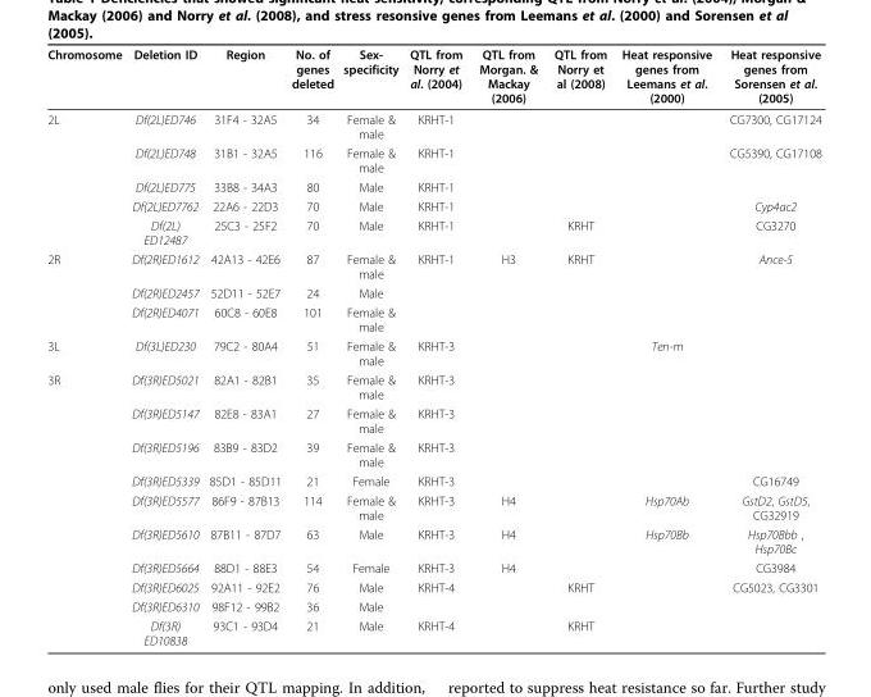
<table><thead><tr><td>Chromosome</td><td>Deletion ID</td><td>Region</td><td>No. of genes deleted</td><td>Sex- specificity</td><td>QTL from Norry et al. (2004)</td><td>QTL from Morgan. &amp; Mackay (2006)</td><td>QTL from Norry et al (2008)</td><td>Heat responsive genes from Leemans et al. (2000)</td><td>Heat responsive genes from Sorensen et al. (2005)</td></tr></thead><tbody><tr><td rowspan="5">2L</td><td>Df(2L)ED746</td><td>31F4 - 32A5</td><td>34</td><td>Female &amp; male</td><td>KRHT-1</td><td></td><td></td><td></td><td>CG7300, CG17124</td></tr><tr><td>Df(2L)ED748</td><td>31B1 - 32A5</td><td>116</td><td>Female &amp; male</td><td>KRHT-1</td><td></td><td></td><td></td><td>CG5390, CG17108</td></tr><tr><td>Df(2L)ED775</td><td>33B8 - 34A3</td><td>80</td><td>Male</td><td>KRHT-1</td><td></td><td></td><td></td><td></td></tr><tr><td>Df(2L)ED7762</td><td>22A6 - 22D3</td><td>70</td><td>Male</td><td>KRHT-1</td><td></td><td></td><td></td><td>Cyp4ac2</td></tr><tr><td>Df(2L) ED12487</td><td>25C3 - 25F2</td><td>70</td><td>Male</td><td>KRHT-1</td><td></td><td>KRHT</td><td></td><td>CG3270</td></tr><tr><td rowspan="3">2R</td><td>Df(2R)ED1612</td><td>42A13 - 42E6</td><td>87</td><td>Female &amp; male</td><td>KRHT-1</td><td>H3</td><td>KRHT</td><td></td><td>Ance-5</td></tr><tr><td>Df(2R)ED2457</td><td>52D11 - 52E7</td><td>24</td><td>Male</td><td></td><td></td><td></td><td></td><td></td></tr><tr><td>Df(2R)ED4071</td><td>60C8 - 60E8</td><td>101</td><td>Female &amp; male</td><td></td><td></td><td></td><td></td><td></td></tr><tr><td>3L</td><td>Df(3L)ED230</td><td>79C2 - 80A4</td><td>51</td><td>Female &amp; male</td><td>KRHT-3</td><td></td><td></td><td>Ten-m</td><td></td></tr><tr><td rowspan="10">3R</td><td>Df(3R)ED5021</td><td>82A1 - 82B1</td><td>35</td><td>Female &amp; male</td><td>KRHT-3</td><td></td><td></td><td></td><td></td></tr><tr><td>Df(3R)ED5147</td><td>82E8 - 83A1</td><td>27</td><td>Female &amp; male</td><td>KRHT-3</td><td></td><td></td><td></td><td></td></tr><tr><td>Df(3R)ED5196</td><td>83B9 - 83D2</td><td>39</td><td>Female &amp; male</td><td>KRHT-3</td><td></td><td></td><td></td><td></td></tr><tr><td>Df(3R)ED5339</td><td>85D1 - 85D11</td><td>21</td><td>Female</td><td>KRHT-3</td><td></td><td></td><td></td><td>CG16749</td></tr><tr><td>Df(3R)ED5577</td><td>86F9 - 87B13</td><td>114</td><td>Female &amp; male</td><td>KRHT-3</td><td>H4</td><td></td><td>Hsp70Ab</td><td>GstD2, GstD5, CG32919</td></tr><tr><td>Df(3R)ED5610</td><td>87B11 - 87D7</td><td>63</td><td>Male</td><td>KRHT-3</td><td>H4</td><td></td><td>Hsp70Bb</td><td>Hsp70Bbb , Hsp70Bc</td></tr><tr><td>Df(3R)ED5664</td><td>88D1 - 88E3</td><td>54</td><td>Female</td><td>KRHT-3</td><td>H4</td><td></td><td></td><td>CG3984</td></tr><tr><td>Df(3R)ED6025</td><td>92A11 - 92E2</td><td>76</td><td>Male</td><td>KRHT-4</td><td></td><td>KRHT</td><td></td><td>CG5023, CG3301</td></tr><tr><td>Df(3R)ED6310</td><td>98F12 - 99B2</td><td>36</td><td>Male</td><td></td><td></td><td></td><td></td><td></td></tr><tr><td>Df(3R) ED10838</td><td>93C1 - 93D4</td><td>21</td><td>Male</td><td>KRHT-4</td><td></td><td>KRHT</td><td></td><td></td></tr></tbody></table>